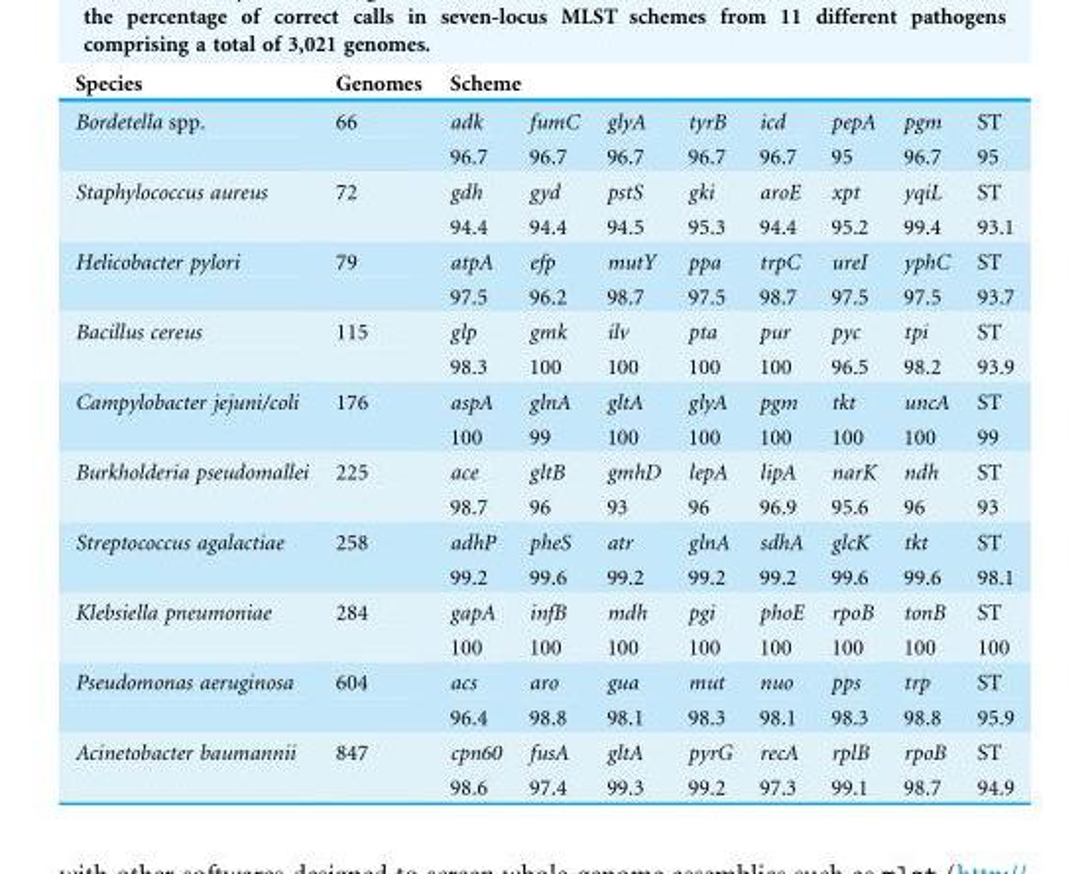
<table><thead><tr><td rowspan="2">Species Bordetella spp.</td><td rowspan="2">Genomes 66</td><td colspan="8">Scheme</td></tr><tr><td>adk</td><td>fumC</td><td>glyA</td><td>tyrB</td><td>icd</td><td>pepA</td><td>pgm</td><td>ST</td></tr></thead><tbody><tr><td></td><td></td><td>96.7</td><td>96.7</td><td>96.7</td><td>96.7</td><td>96.7</td><td>95</td><td>96.7</td><td>95</td></tr><tr><td rowspan="2">Staphylococcus aureus</td><td>72</td><td>gdh</td><td>gyd</td><td>pstS</td><td>gki</td><td>aroE</td><td>xpt</td><td>yqiL</td><td>ST</td></tr><tr><td></td><td>94.4</td><td>94.4</td><td>94.5</td><td>95.3</td><td>94.4</td><td>95.2</td><td>99.4</td><td>93.1</td></tr><tr><td rowspan="2">Helicobacter pylori</td><td>79</td><td>atpA</td><td>efp</td><td>mutY</td><td>ppa</td><td>trpC</td><td>ureI</td><td>yphC</td><td>ST</td></tr><tr><td></td><td>97.5</td><td>96.2</td><td>98.7</td><td>97.5</td><td>98.7</td><td>97.5</td><td>97.5</td><td>93.7</td></tr><tr><td rowspan="2">Bacillus cereus</td><td>115</td><td>glp</td><td>gmk</td><td>ilv</td><td>pta</td><td>pur</td><td>pyc</td><td>tpi</td><td>ST</td></tr><tr><td></td><td>98.3</td><td>100</td><td>100</td><td>100</td><td>100</td><td>96.5</td><td>98.2</td><td>93.9</td></tr><tr><td rowspan="2">Campylobacter jejuni/coli</td><td>176</td><td>aspA</td><td>glnA</td><td>gltA</td><td>glyA</td><td>pgm</td><td>tkt</td><td>uncA</td><td>ST</td></tr><tr><td></td><td>100</td><td>99</td><td>100</td><td>100</td><td>100</td><td>100</td><td>100</td><td>99</td></tr><tr><td rowspan="2">Burkholderia pseudomallei</td><td>225</td><td>ace</td><td>gltB</td><td>gmhD</td><td>lepA</td><td>lipA</td><td>narK</td><td>ndh</td><td>ST</td></tr><tr><td></td><td>98.7</td><td>96</td><td>93</td><td>96</td><td>96.9</td><td>95.6</td><td>96</td><td>93</td></tr><tr><td rowspan="2">Streptococcus agalactiae</td><td>258</td><td>adhP</td><td>pheS</td><td>atr</td><td>glnA</td><td>sdhA</td><td>glcK</td><td>tkt</td><td>ST</td></tr><tr><td></td><td>99.2</td><td>99.6</td><td>99.2</td><td>99.2</td><td>99.2</td><td>99.6</td><td>99.6</td><td>98.1</td></tr><tr><td rowspan="2">Klebsiella pneumoniae</td><td>284</td><td>gapA</td><td>infB</td><td>mdh</td><td>pgi</td><td>phoE</td><td>rpoB</td><td>tonB</td><td>ST</td></tr><tr><td></td><td>100</td><td>100</td><td>100</td><td>100</td><td>100</td><td>100</td><td>100</td><td>100</td></tr><tr><td rowspan="2">Pseudomonas aeruginosa</td><td>604</td><td>acs</td><td>aro</td><td>gua</td><td>mut</td><td>nuo</td><td>pps</td><td>trp</td><td>ST</td></tr><tr><td></td><td>96.4</td><td>98.8</td><td>98.1</td><td>98.3</td><td>98.1</td><td>98.3</td><td>98.8</td><td>95.9</td></tr><tr><td rowspan="2">Acinetobacter baumannii</td><td>847</td><td>cpn60</td><td>fusA</td><td>gltA</td><td>pyrG</td><td>recA</td><td>rplB</td><td>rpoB</td><td>ST</td></tr><tr><td></td><td>98.6</td><td>97.4</td><td>99.3</td><td>99.2</td><td>97.3</td><td>99.1</td><td>98.7</td><td>94.9</td></tr></tbody></table>